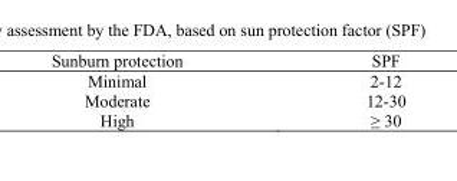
<table><thead><tr><td>Sunburn protection</td><td>SPF</td></tr></thead><tbody><tr><td>Minimal</td><td>2-12</td></tr><tr><td>Moderate</td><td>12-30</td></tr><tr><td>High</td><td>≥ 30</td></tr></tbody></table>